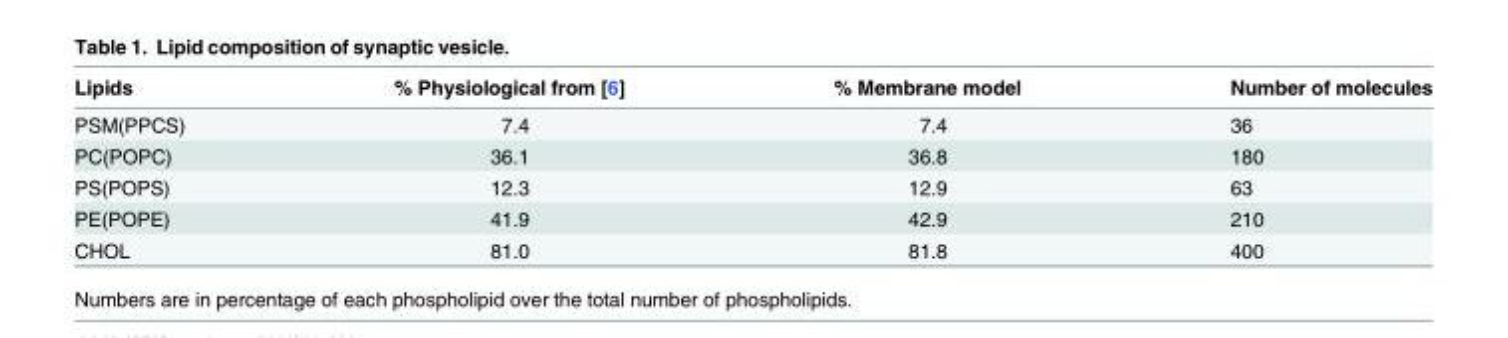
<table><thead><tr><td>Lipids</td><td>% Physiological from [6]</td><td>% Membrane model</td><td>Number of molecules</td></tr></thead><tbody><tr><td>PSM(PPCS)</td><td>7.4</td><td>7.4</td><td>36</td></tr><tr><td>PC(POPC)</td><td>36.1</td><td>36.8</td><td>180</td></tr><tr><td>PS(POPS)</td><td>12.3</td><td>12.9</td><td>63</td></tr><tr><td>PE(POPE)</td><td>41.9</td><td>42.9</td><td>210</td></tr><tr><td>CHOL</td><td>81.0</td><td>81.8</td><td>400</td></tr></tbody></table>